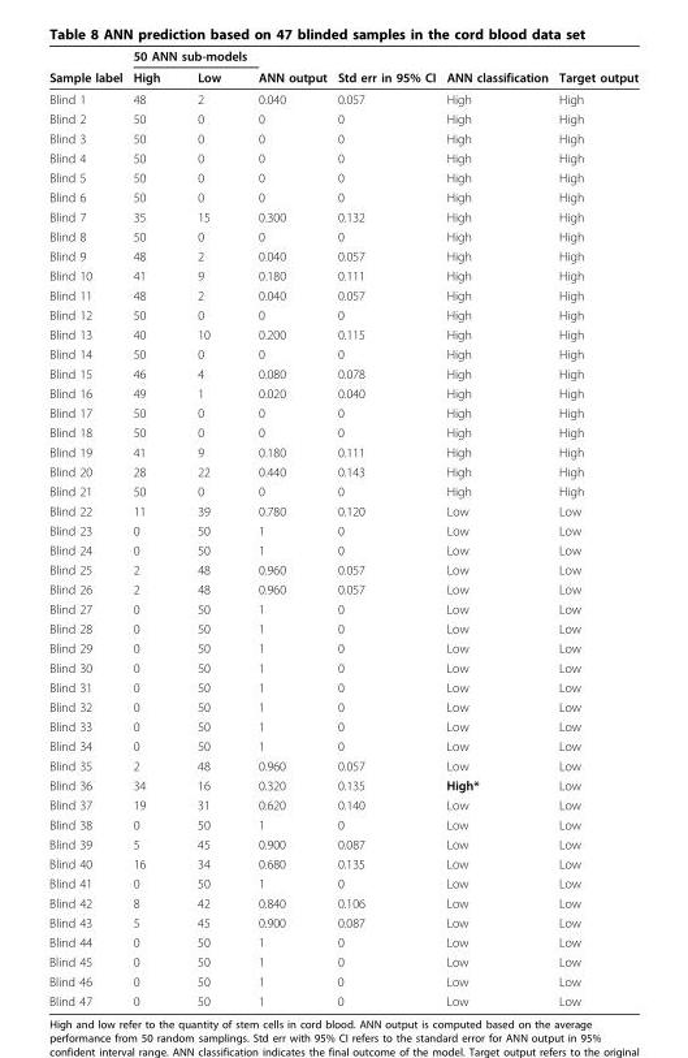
<table><thead><tr><td rowspan="2">Sample label</td><td colspan="2">50 ANN sub-models</td><td rowspan="2">ANN output</td><td rowspan="2">Std err in 95% CI</td><td rowspan="2">ANN classification</td><td rowspan="2">Target output</td></tr><tr><td>High</td><td>Low</td></tr></thead><tbody><tr><td>Blind 1</td><td>48</td><td>2</td><td>0.040</td><td>0.057</td><td>High</td><td>High</td></tr><tr><td>Blind 2</td><td>50</td><td>0</td><td>0</td><td>0</td><td>High</td><td>High</td></tr><tr><td>Blind 3</td><td>50</td><td>0</td><td>0</td><td>0</td><td>High</td><td>High</td></tr><tr><td>Blind 4</td><td>50</td><td>0</td><td>0</td><td>0</td><td>High</td><td>High</td></tr><tr><td>Blind 5</td><td>50</td><td>0</td><td>0</td><td>0</td><td>High</td><td>High</td></tr><tr><td>Blind 6</td><td>50</td><td>0</td><td>0</td><td>0</td><td>High</td><td>High</td></tr><tr><td>Blind 7</td><td>35</td><td>15</td><td>0.300</td><td>0.132</td><td>High</td><td>High</td></tr><tr><td>Blind 8</td><td>50</td><td>0</td><td>0</td><td>0</td><td>High</td><td>High</td></tr><tr><td>Blind 9</td><td>48</td><td>2</td><td>0.040</td><td>0.057</td><td>High</td><td>High</td></tr><tr><td>Blind 10</td><td>41</td><td>9</td><td>0.180</td><td>0.111</td><td>High</td><td>High</td></tr><tr><td>Blind 11</td><td>48</td><td>2</td><td>0.040</td><td>0.057</td><td>High</td><td>High</td></tr><tr><td>Blind 12</td><td>50</td><td>0</td><td>0</td><td>0</td><td>High</td><td>High</td></tr><tr><td>Blind 13</td><td>40</td><td>10</td><td>0.200</td><td>0.115</td><td>High</td><td>High</td></tr><tr><td>Blind 14</td><td>50</td><td>0</td><td>0</td><td>0</td><td>High</td><td>High</td></tr><tr><td>Blind 15</td><td>46</td><td>4</td><td>0.080</td><td>0.078</td><td>High</td><td>High</td></tr><tr><td>Blind 16</td><td>49</td><td>1</td><td>0.020</td><td>0.040</td><td>High</td><td>High</td></tr><tr><td>Blind 17</td><td>50</td><td>0</td><td>0</td><td>0</td><td>High</td><td>High</td></tr><tr><td>Blind 18</td><td>50</td><td>0</td><td>0</td><td>0</td><td>High</td><td>High</td></tr><tr><td>Blind 19</td><td>41</td><td>9</td><td>0.180</td><td>0.111</td><td>High</td><td>High</td></tr><tr><td>Blind 20</td><td>28</td><td>22</td><td>0.440</td><td>0.143</td><td>High</td><td>High</td></tr><tr><td>Blind 21</td><td>50</td><td>0</td><td>0</td><td>0</td><td>High</td><td>High</td></tr><tr><td>Blind 22</td><td>11</td><td>39</td><td>0.780</td><td>0.120</td><td>Low</td><td>Low</td></tr><tr><td>Blind 23</td><td>0</td><td>50</td><td>1</td><td>0</td><td>Low</td><td>Low</td></tr><tr><td>Blind 24</td><td>0</td><td>50</td><td>1</td><td>0</td><td>Low</td><td>Low</td></tr><tr><td>Blind 25</td><td>2</td><td>48</td><td>0.960</td><td>0.057</td><td>Low</td><td>Low</td></tr><tr><td>Blind 26</td><td>2</td><td>48</td><td>0.960</td><td>0.057</td><td>Low</td><td>Low</td></tr><tr><td>Blind 27</td><td>0</td><td>50</td><td>1</td><td>0</td><td>Low</td><td>Low</td></tr><tr><td>Blind 28</td><td>0</td><td>50</td><td>1</td><td>0</td><td>Low</td><td>Low</td></tr><tr><td>Blind 29</td><td>0</td><td>50</td><td>1</td><td>0</td><td>Low</td><td>Low</td></tr><tr><td>Blind 30</td><td>0</td><td>50</td><td>1</td><td>0</td><td>Low</td><td>Low</td></tr><tr><td>Blind 31</td><td>0</td><td>50</td><td>1</td><td>0</td><td>Low</td><td>Low</td></tr><tr><td>Blind 32</td><td>0</td><td>50</td><td>1</td><td>0</td><td>Low</td><td>Low</td></tr><tr><td>Blind 33</td><td>0</td><td>50</td><td>1</td><td>0</td><td>Low</td><td>Low</td></tr><tr><td>Blind 34</td><td>0</td><td>50</td><td>1</td><td>0</td><td>Low</td><td>Low</td></tr><tr><td>Blind 35</td><td>2</td><td>48</td><td>0.960</td><td>0.057</td><td>Low</td><td>Low</td></tr><tr><td>Blind 36</td><td>34</td><td>16</td><td>0.320</td><td>0.135</td><td>High*</td><td>Low</td></tr><tr><td>Blind 37</td><td>19</td><td>31</td><td>0.620</td><td>0.140</td><td>Low</td><td>Low</td></tr><tr><td>Blind 38</td><td>0</td><td>50</td><td>1</td><td>0</td><td>Low</td><td>Low</td></tr><tr><td>Blind 39</td><td>5</td><td>45</td><td>0.900</td><td>0.087</td><td>Low</td><td>Low</td></tr><tr><td>Blind 40</td><td>16</td><td>34</td><td>0.680</td><td>0.135</td><td>Low</td><td>Low</td></tr><tr><td>Blind 41</td><td>0</td><td>50</td><td>1</td><td>0</td><td>Low</td><td>Low</td></tr><tr><td>Blind 42</td><td>8</td><td>42</td><td>0.840</td><td>0.106</td><td>Low</td><td>Low</td></tr><tr><td>Blind 43</td><td>5</td><td>45</td><td>0.900</td><td>0.087</td><td>Low</td><td>Low</td></tr><tr><td>Blind 44</td><td>0</td><td>50</td><td>1</td><td>0</td><td>Low</td><td>Low</td></tr><tr><td>Blind 45</td><td>0</td><td>50</td><td>1</td><td>0</td><td>Low</td><td>Low</td></tr><tr><td>Blind 46</td><td>0</td><td>50</td><td>1</td><td>0</td><td>Low</td><td>Low</td></tr><tr><td>Blind 47</td><td>0</td><td>50</td><td>1</td><td>0</td><td>Low</td><td>Low</td></tr></tbody></table>